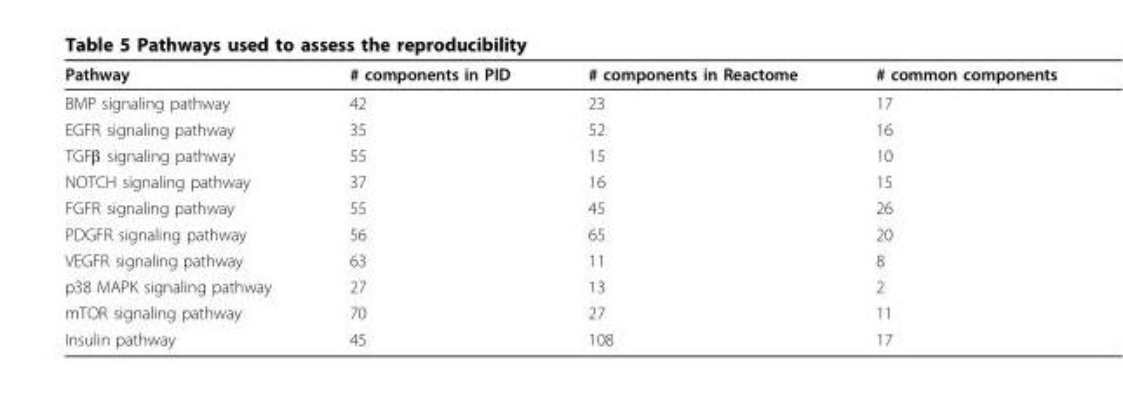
<table><thead><tr><td>Pathway</td><td># components in PID</td><td># components in Reactome</td><td># common components</td></tr></thead><tbody><tr><td>BMP signaling pathway</td><td>42</td><td>23</td><td>17</td></tr><tr><td>EGFR signaling pathway</td><td>35</td><td>52</td><td>16</td></tr><tr><td>TGFβ signaling pathway</td><td>55</td><td>15</td><td>10</td></tr><tr><td>NOTCH signaling pathway</td><td>37</td><td>16</td><td>15</td></tr><tr><td>FGFR signaling pathway</td><td>55</td><td>45</td><td>26</td></tr><tr><td>PDGFR signaling pathway</td><td>56</td><td>65</td><td>20</td></tr><tr><td>VEGFR signaling pathway</td><td>63</td><td>11</td><td>8</td></tr><tr><td>p38 MAPK signaling pathway</td><td>27</td><td>13</td><td>2</td></tr><tr><td>mTOR signaling pathway</td><td>70</td><td>27</td><td>11</td></tr><tr><td>Insulin pathway</td><td>45</td><td>108</td><td>17</td></tr></tbody></table>